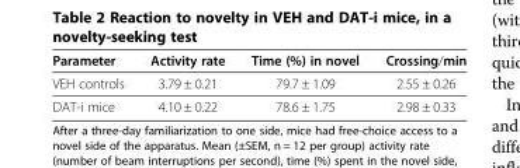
<table><thead><tr><td>Parameter</td><td>Activity rate</td><td>Time (%) in novel</td><td>Crossing/min</td></tr></thead><tbody><tr><td>VEH controls</td><td>3.79 ± 0.21</td><td>79.7 ± 1.09</td><td>2.55 ± 0.26</td></tr><tr><td>DAT-i mice</td><td>4.10 ± 0.22</td><td>78.6 ± 1.75</td><td>2.98 ± 0.33</td></tr></tbody></table>